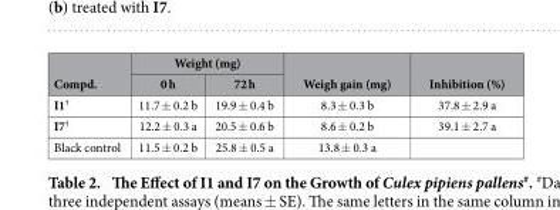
<table><thead><tr><td rowspan="2">Compd.</td><td colspan="2">Weight (mg)</td><td rowspan="2">Weigh gain (mg)</td><td rowspan="2">Inhibition (%)</td></tr><tr><td>0 h</td><td>72 h</td></tr></thead><tbody><tr><td>I1†</td><td>11.7 ± 0.2 b</td><td>19.9 ± 0.4 b</td><td>8.3 ± 0.3 b</td><td>37.8 ± 2.9 a</td></tr><tr><td>I7†</td><td>12.2 ± 0.3 a</td><td>20.5 ± 0.6 b</td><td>8.6 ± 0.2 b</td><td>39.1 ± 2.7 a</td></tr><tr><td>Black control</td><td>11.5 ± 0.2 b</td><td>25.8 ± 0.5 a</td><td>13.8 ± 0.3 a</td><td></td></tr></tbody></table>